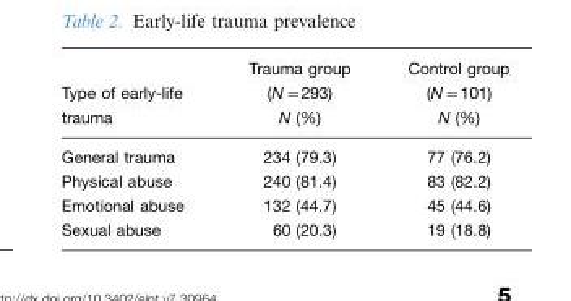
<table><thead><tr><td>Type of early-life trauma</td><td>Trauma group (N=293) N (%)</td><td>Control group (N=101) N (%)</td></tr></thead><tbody><tr><td>General trauma</td><td>234 (79.3)</td><td>77 (76.2)</td></tr><tr><td>Physical abuse</td><td>240 (81.4)</td><td>83 (82.2)</td></tr><tr><td>Emotional abuse</td><td>132 (44.7)</td><td>45 (44.6)</td></tr><tr><td>Sexual abuse</td><td>60 (20.3)</td><td>19 (18.8)</td></tr></tbody></table>